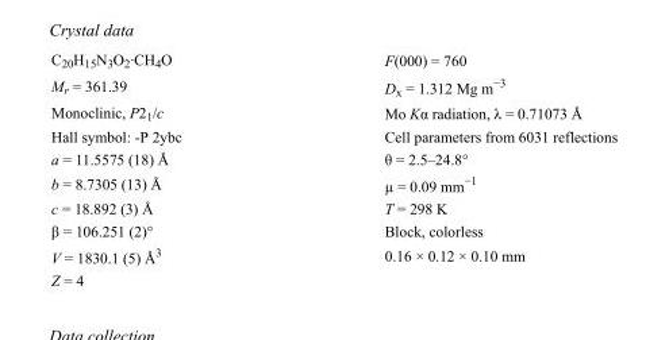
<table><tbody><tr><td>C<sub>20</sub>H<sub>15</sub>N<sub>3</sub>O<sub>2</sub>·CH<sub>4</sub>O</td><td>F(000) = 760</td></tr><tr><td>M<sub>r</sub> = 361.39</td><td>D<sub>x</sub> = 1.312 Mg m<sup>−3</sup></td></tr><tr><td>Monoclinic, P2<sub>1</sub>/c</td><td>Mo Kα radiation, λ = 0.71073 Å</td></tr><tr><td>Hall symbol: -P 2ybc</td><td>Cell parameters from 6031 reflections</td></tr><tr><td>a = 11.5575 (18) Å</td><td>θ = 2.5–24.8°</td></tr><tr><td>b = 8.7305 (13) Å</td><td>µ = 0.09 mm<sup>−1</sup></td></tr><tr><td>c = 18.892 (3) Å</td><td>T = 298 K</td></tr><tr><td>β = 106.251 (2)°</td><td>Block, colorless</td></tr><tr><td>V = 1830.1 (5) Å<sup>3</sup></td><td>0.16 × 0.12 × 0.10 mm</td></tr><tr><td>Z = 4</td><td></td></tr></tbody></table>